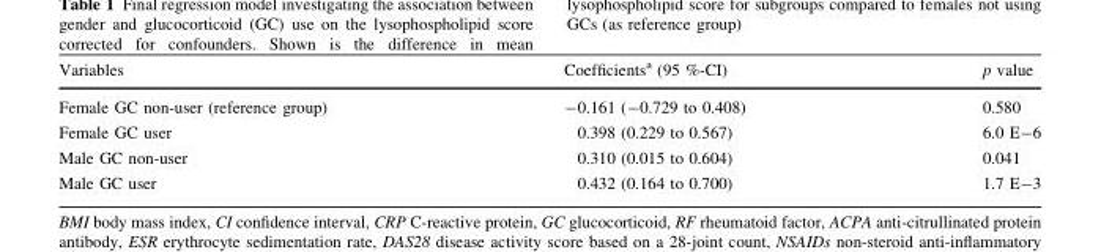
<table><thead><tr><td>Variables</td><td>Coefficients<sup>a</sup> (95 %-CI)</td><td>p value</td></tr></thead><tbody><tr><td>Female GC non-user (reference group)</td><td>-0.161 (-0.729 to 0.408)</td><td>0.580</td></tr><tr><td>Female GC user</td><td>0.398 (0.229 to 0.567)</td><td>6.0 E-6</td></tr><tr><td>Male GC non-user</td><td>0.310 (0.015 to 0.604)</td><td>0.041</td></tr><tr><td>Male GC user</td><td>0.432 (0.164 to 0.700)</td><td>1.7 E-3</td></tr></tbody></table>